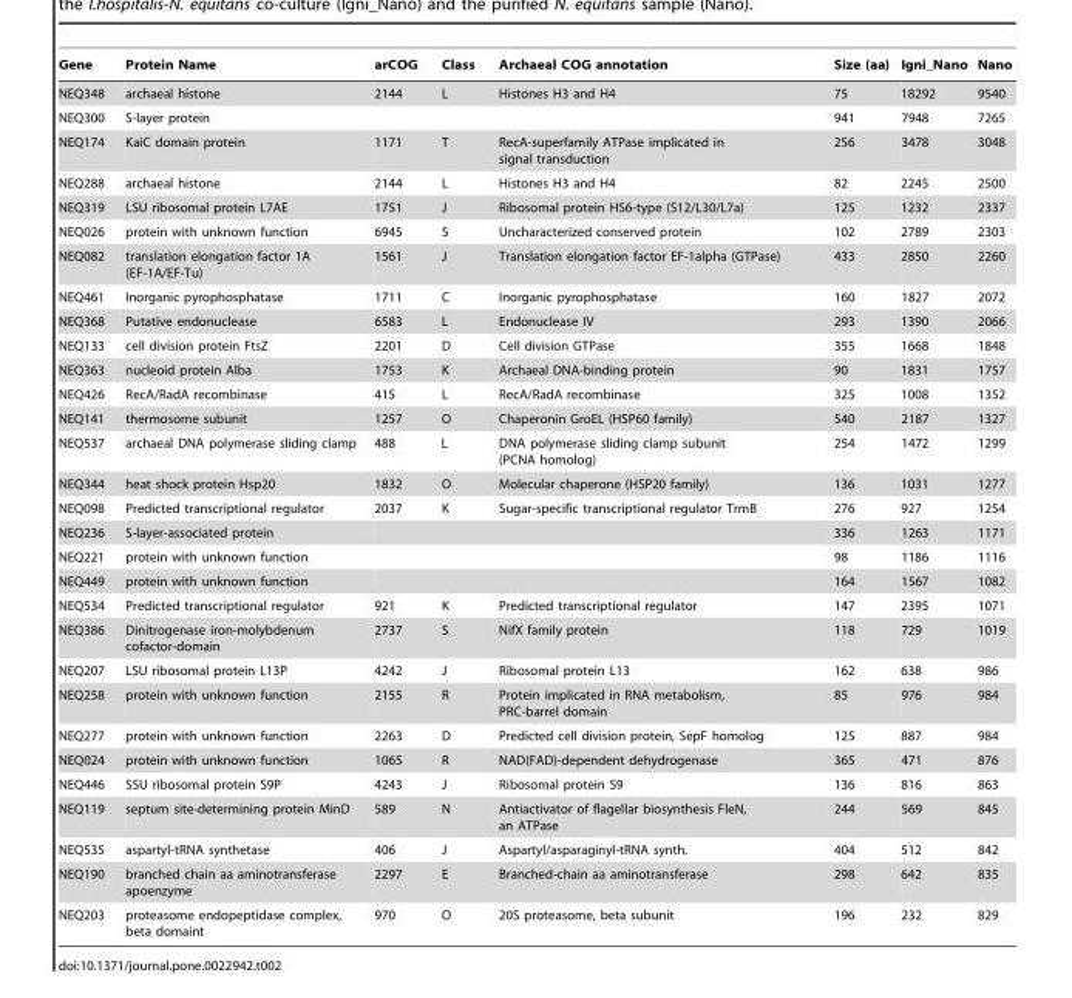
<table><thead><tr><td>Gene</td><td>Protein Name</td><td>arCOG</td><td>Class</td><td>Archaeal COG annotation</td><td>Size (aa)</td><td>Igni_Nano</td><td>Nano</td></tr></thead><tbody><tr><td>NEQ348</td><td>archaeal histone</td><td>2144</td><td>L</td><td>Histones H3 and H4</td><td>75</td><td>18292</td><td>9540</td></tr><tr><td>NEQ300</td><td>S-layer protein</td><td></td><td></td><td></td><td>941</td><td>7948</td><td>7265</td></tr><tr><td>NEQ174</td><td>KaiC domain protein</td><td>1171</td><td>T</td><td>RecA-superfamily ATPase implicated in signal transduction</td><td>256</td><td>3478</td><td>3048</td></tr><tr><td>NEQ288</td><td>archaeal histone</td><td>2144</td><td>L</td><td>Histones H3 and H4</td><td>82</td><td>2245</td><td>2500</td></tr><tr><td>NEQ319</td><td>LSU ribosomal protein L7AE</td><td>1751</td><td>J</td><td>Ribosomal protein HS6-type (S12/L30/L7a)</td><td>125</td><td>1232</td><td>2337</td></tr><tr><td>NEQ026</td><td>protein with unknown function</td><td>6945</td><td>S</td><td>Uncharacterized conserved protein</td><td>102</td><td>2789</td><td>2303</td></tr><tr><td>NEQ082</td><td>translation elongation factor 1A (EF-1A/EF-Tu)</td><td>1561</td><td>J</td><td>Translation elongation factor EF-1alpha (GTPase)</td><td>433</td><td>2850</td><td>2260</td></tr><tr><td>NEQ461</td><td>Inorganic pyrophosphatase</td><td>1711</td><td>C</td><td>Inorganic pyrophosphatase</td><td>160</td><td>1827</td><td>2072</td></tr><tr><td>NEQ368</td><td>Putative endonuclease</td><td>6583</td><td>L</td><td>Endonuclease IV</td><td>293</td><td>1390</td><td>2066</td></tr><tr><td>NEQ133</td><td>cell division protein FtsZ</td><td>2201</td><td>D</td><td>Cell division GTPase</td><td>355</td><td>1668</td><td>1848</td></tr><tr><td>NEQ363</td><td>nucleoid protein Alba</td><td>1753</td><td>K</td><td>Archaeal DNA-binding protein</td><td>90</td><td>1831</td><td>1757</td></tr><tr><td>NEQ426</td><td>RecA/RadA recombinase</td><td>415</td><td>L</td><td>RecA/RadA recombinase</td><td>325</td><td>1008</td><td>1352</td></tr><tr><td>NEQ141</td><td>thermosome subunit</td><td>1257</td><td>O</td><td>Chaperonin GroEL (HSP60 family)</td><td>540</td><td>2187</td><td>1327</td></tr><tr><td>NEQ537</td><td>archaeal DNA polymerase sliding clamp</td><td>488</td><td>L</td><td>DNA polymerase sliding clamp subunit (PCNA homolog)</td><td>254</td><td>1472</td><td>1299</td></tr><tr><td>NEQ344</td><td>heat shock protein Hsp20</td><td>1832</td><td>O</td><td>Molecular chaperone (HSP20 family)</td><td>136</td><td>1031</td><td>1277</td></tr><tr><td>NEQ098</td><td>Predicted transcriptional regulator</td><td>2037</td><td>K</td><td>Sugar-specific transcriptional regulator TrmB</td><td>276</td><td>927</td><td>1254</td></tr><tr><td>NEQ236</td><td>S-layer-associated protein</td><td></td><td></td><td></td><td>336</td><td>1263</td><td>1171</td></tr><tr><td>NEQ221</td><td>protein with unknown function</td><td></td><td></td><td></td><td>98</td><td>1186</td><td>1116</td></tr><tr><td>NEQ449</td><td>protein with unknown function</td><td></td><td></td><td></td><td>164</td><td>1567</td><td>1082</td></tr><tr><td>NEQ534</td><td>Predicted transcriptional regulator</td><td>921</td><td>K</td><td>Predicted transcriptional regulator</td><td>147</td><td>2395</td><td>1071</td></tr><tr><td>NEQ386</td><td>Dinitrogenase iron-molybdenum cofactor-domain</td><td>2737</td><td>S</td><td>NifX family protein</td><td>118</td><td>729</td><td>1019</td></tr><tr><td>NEQ207</td><td>LSU ribosomal protein L13P</td><td>4242</td><td>J</td><td>Ribosomal protein L13</td><td>162</td><td>638</td><td>986</td></tr><tr><td>NEQ258</td><td>protein with unknown function</td><td>2155</td><td>R</td><td>Protein implicated in RNA metabolism, PRC-barrel domain</td><td>85</td><td>976</td><td>984</td></tr><tr><td>NEQ277</td><td>protein with unknown function</td><td>2263</td><td>D</td><td>Predicted cell division protein, SepF homolog</td><td>125</td><td>887</td><td>984</td></tr><tr><td>NEQ024</td><td>protein with unknown function</td><td>1065</td><td>R</td><td>NAD(FAD)-dependent dehydrogenase</td><td>365</td><td>471</td><td>876</td></tr><tr><td>NEQ446</td><td>SSU ribosomal protein S9P</td><td>4243</td><td>J</td><td>Ribosomal protein S9</td><td>136</td><td>816</td><td>863</td></tr><tr><td>NEQ119</td><td>septum site-determining protein MinD</td><td>589</td><td>N</td><td>Antiactivator of flagellar biosynthesis FleN, an ATPase</td><td>244</td><td>569</td><td>845</td></tr><tr><td>NEQ535</td><td>aspartyl-tRNA synthetase</td><td>406</td><td>J</td><td>Aspartyl/asparaginyl-tRNA synth.</td><td>404</td><td>512</td><td>842</td></tr><tr><td>NEQ190</td><td>branched chain aa aminotransferase apoenzyme</td><td>2297</td><td>E</td><td>Branched-chain aa aminotransferase</td><td>298</td><td>642</td><td>835</td></tr><tr><td>NEQ203</td><td>proteasome endopeptidase complex, beta domaint</td><td>970</td><td>O</td><td>20S proteasome, beta subunit</td><td>196</td><td>232</td><td>829</td></tr></tbody></table>